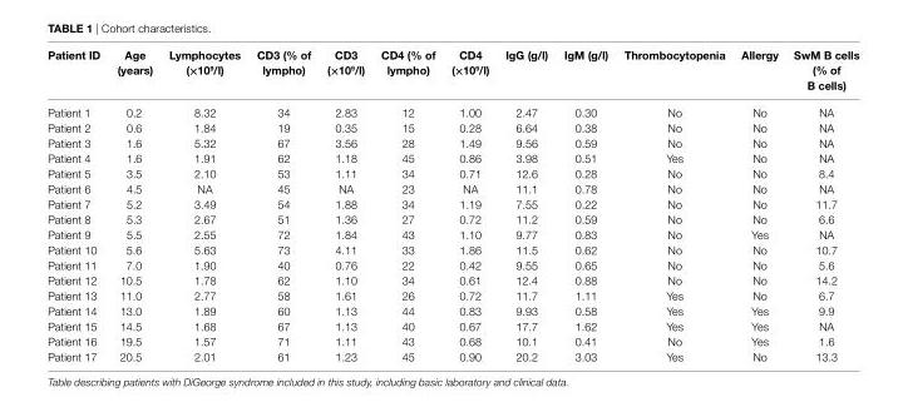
<table><thead><tr><td>Patient iD</td><td>age (years)</td><td>lymphocytes (×10<sup>9</sup>/l)</td><td>cD3 (% of lympho)</td><td>cD3 (×10<sup>9</sup>/l)</td><td>cD4 (% of lympho)</td><td>cD4 (×10<sup>9</sup>/l)</td><td>igg (g/l)</td><td>igM (g/l)</td><td>Thrombocytopenia</td><td>allergy</td><td>swM b cells (% of b cells)</td></tr></thead><tbody><tr><td>Patient 1</td><td>0.2</td><td>8.32</td><td>34</td><td>2.83</td><td>12</td><td>1.00</td><td>2.47</td><td>0.30</td><td>No</td><td>No</td><td>NA</td></tr><tr><td>Patient 2</td><td>0.6</td><td>1.84</td><td>19</td><td>0.35</td><td>15</td><td>0.28</td><td>6.64</td><td>0.38</td><td>No</td><td>No</td><td>NA</td></tr><tr><td>Patient 3</td><td>1.6</td><td>5.32</td><td>67</td><td>3.56</td><td>28</td><td>1.49</td><td>9.56</td><td>0.59</td><td>No</td><td>No</td><td>NA</td></tr><tr><td>Patient 4</td><td>1.6</td><td>1.91</td><td>62</td><td>1.18</td><td>45</td><td>0.86</td><td>3.98</td><td>0.51</td><td>Yes</td><td>No</td><td>NA</td></tr><tr><td>Patient 5</td><td>3.5</td><td>2.10</td><td>53</td><td>1.11</td><td>34</td><td>0.71</td><td>12.6</td><td>0.28</td><td>No</td><td>No</td><td>8.4</td></tr><tr><td>Patient 6</td><td>4.5</td><td>NA</td><td>45</td><td>NA</td><td>23</td><td>NA</td><td>11.1</td><td>0.78</td><td>No</td><td>No</td><td>NA</td></tr><tr><td>Patient 7</td><td>5.2</td><td>3.49</td><td>54</td><td>1.88</td><td>34</td><td>1.19</td><td>7.55</td><td>0.22</td><td>No</td><td>No</td><td>11.7</td></tr><tr><td>Patient 8</td><td>5.3</td><td>2.67</td><td>51</td><td>1.36</td><td>27</td><td>0.72</td><td>11.2</td><td>0.59</td><td>No</td><td>No</td><td>6.6</td></tr><tr><td>Patient 9</td><td>5.5</td><td>2.55</td><td>72</td><td>1.84</td><td>43</td><td>1.10</td><td>9.77</td><td>0.83</td><td>No</td><td>Yes</td><td>NA</td></tr><tr><td>Patient 10</td><td>5.6</td><td>5.63</td><td>73</td><td>4.11</td><td>33</td><td>1.86</td><td>11.5</td><td>0.62</td><td>No</td><td>No</td><td>10.7</td></tr><tr><td>Patient 11</td><td>7.0</td><td>1.90</td><td>40</td><td>0.76</td><td>22</td><td>0.42</td><td>9.55</td><td>0.65</td><td>No</td><td>No</td><td>5.6</td></tr><tr><td>Patient 12</td><td>10.5</td><td>1.78</td><td>62</td><td>1.10</td><td>34</td><td>0.61</td><td>12.4</td><td>0.88</td><td>No</td><td>No</td><td>14.2</td></tr><tr><td>Patient 13</td><td>11.0</td><td>2.77</td><td>58</td><td>1.61</td><td>26</td><td>0.72</td><td>11.7</td><td>1.11</td><td>Yes</td><td>No</td><td>6.7</td></tr><tr><td>Patient 14</td><td>13.0</td><td>1.89</td><td>60</td><td>1.13</td><td>44</td><td>0.83</td><td>9.93</td><td>0.58</td><td>Yes</td><td>Yes</td><td>9.9</td></tr><tr><td>Patient 15</td><td>14.5</td><td>1.68</td><td>67</td><td>1.13</td><td>40</td><td>0.67</td><td>17.7</td><td>1.62</td><td>Yes</td><td>Yes</td><td>NA</td></tr><tr><td>Patient 16</td><td>19.5</td><td>1.57</td><td>71</td><td>1.11</td><td>43</td><td>0.68</td><td>10.1</td><td>0.41</td><td>No</td><td>Yes</td><td>1.6</td></tr><tr><td>Patient 17</td><td>20.5</td><td>2.01</td><td>61</td><td>1.23</td><td>45</td><td>0.90</td><td>20.2</td><td>3.03</td><td>Yes</td><td>No</td><td>13.3</td></tr></tbody></table>